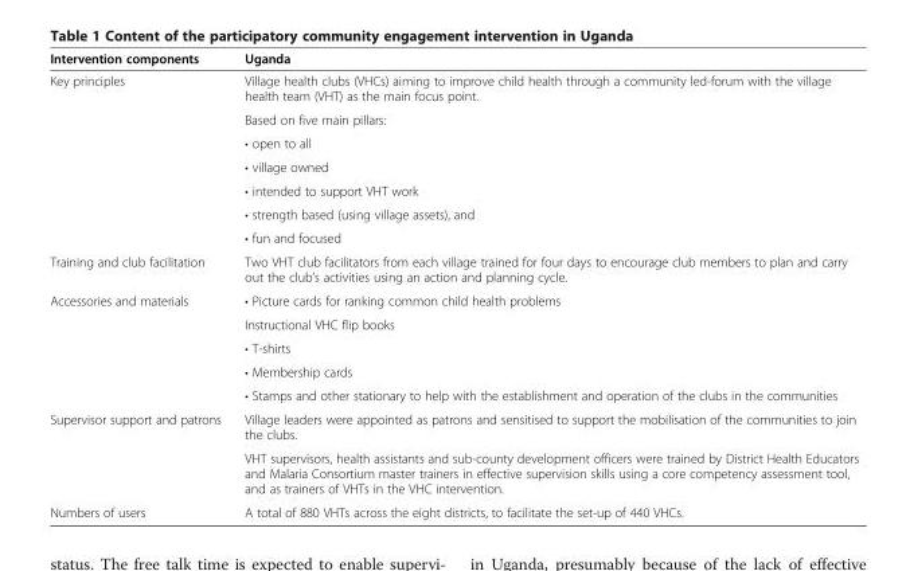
<table><thead><tr><td>Intervention components</td><td>Uganda</td></tr></thead><tbody><tr><td rowspan="7">Key principles</td><td>Village health clubs (VHCs) aiming to improve child health through a community led-forum with the village health team (VHT) as the main focus point.</td></tr><tr><td>Based on five main pillars:</td></tr><tr><td>• open to all</td></tr><tr><td>• village owned</td></tr><tr><td>• intended to support VHT work</td></tr><tr><td>• strength based (using village assets), and</td></tr><tr><td>• fun and focused</td></tr><tr><td>Training and club facilitation</td><td>Two VHT club facilitators from each village trained for four days to encourage club members to plan and carry out the club’s activities using an action and planning cycle.</td></tr><tr><td rowspan="5">Accessories and materials</td><td>• Picture cards for ranking common child health problems</td></tr><tr><td>Instructional VHC flip books</td></tr><tr><td>• T-shirts</td></tr><tr><td>• Membership cards</td></tr><tr><td>• Stamps and other stationary to help with the establishment and operation of the clubs in the communities</td></tr><tr><td rowspan="2">Supervisor support and patrons</td><td>Village leaders were appointed as patrons and sensitised to support the mobilisation of the communities to join the clubs.</td></tr><tr><td>VHT supervisors, health assistants and sub-county development officers were trained by District Health Educators and Malaria Consortium master trainers in effective supervision skills using a core competency assessment tool, and as trainers of VHTs in the VHC intervention.</td></tr><tr><td>Numbers of users</td><td>A total of 880 VHTs across the eight districts, to facilitate the set-up of 440 VHCs.</td></tr></tbody></table>